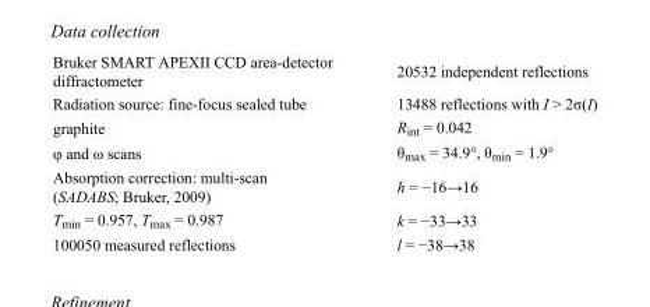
<table><tbody><tr><td>Bruker SMART APEXII CCD area-detector diffractometer</td><td>20532 independent reflections</td></tr><tr><td>Radiation source: fine-focus sealed tube</td><td>13488 reflections with I &gt; 2σ(I)</td></tr><tr><td>graphite</td><td>R<sub>int</sub> = 0.042</td></tr><tr><td>φ and ω scans</td><td>θ<sub>max</sub> = 34.9°, θ<sub>min</sub> = 1.9°</td></tr><tr><td>Absorption correction: multi-scan (SADABS; Bruker, 2009)</td><td>h = −16→16</td></tr><tr><td>T<sub>min</sub> = 0.957, T<sub>max</sub> = 0.987</td><td>k = −33→33</td></tr><tr><td>100050 measured reflections</td><td>l = −38→38</td></tr></tbody></table>